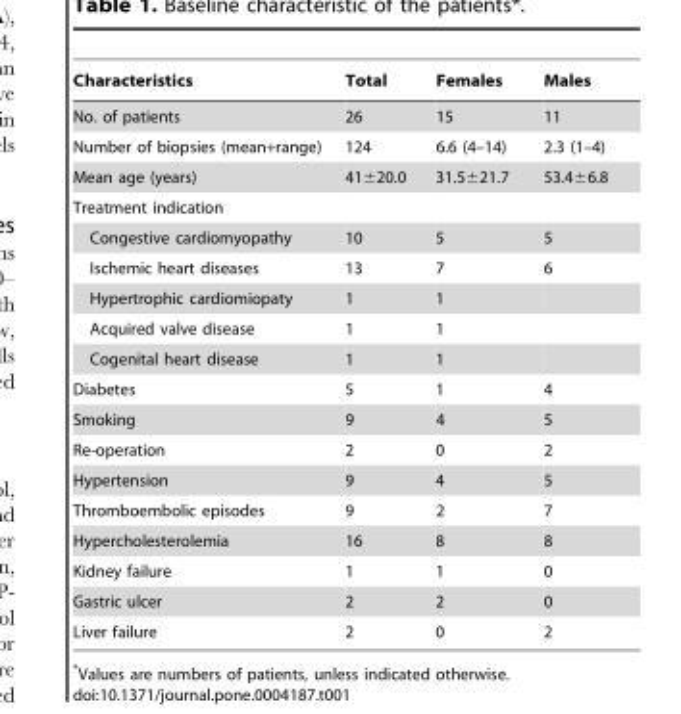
<table><thead><tr><td>Characteristics</td><td>Total</td><td>Females</td><td>Males</td></tr></thead><tbody><tr><td>No. of patients</td><td>26</td><td>15</td><td>11</td></tr><tr><td>Number of biopsies (mean+range)</td><td>124</td><td>6.6 (4–14)</td><td>2.3 (1–4)</td></tr><tr><td>Mean age (years)</td><td>41±20.0</td><td>31.5±21.7</td><td>53.4±6.8</td></tr><tr><td colspan="4">Treatment indication</td></tr><tr><td>Congestive cardiomyopathy</td><td>10</td><td>5</td><td>5</td></tr><tr><td>Ischemic heart diseases</td><td>13</td><td>7</td><td>6</td></tr><tr><td>Hypertrophic cardiomiopaty</td><td>1</td><td>1</td><td></td></tr><tr><td>Acquired valve disease</td><td>1</td><td>1</td><td></td></tr><tr><td>Cogenital heart disease</td><td>1</td><td>1</td><td></td></tr><tr><td>Diabetes</td><td>5</td><td>1</td><td>4</td></tr><tr><td>Smoking</td><td>9</td><td>4</td><td>5</td></tr><tr><td>Re-operation</td><td>2</td><td>0</td><td>2</td></tr><tr><td>Hypertension</td><td>9</td><td>4</td><td>5</td></tr><tr><td>Thromboembolic episodes</td><td>9</td><td>2</td><td>7</td></tr><tr><td>Hypercholesterolemia</td><td>16</td><td>8</td><td>8</td></tr><tr><td>Kidney failure</td><td>1</td><td>1</td><td>0</td></tr><tr><td>Gastric ulcer</td><td>2</td><td>2</td><td>0</td></tr><tr><td>Liver failure</td><td>2</td><td>0</td><td>2</td></tr></tbody></table>